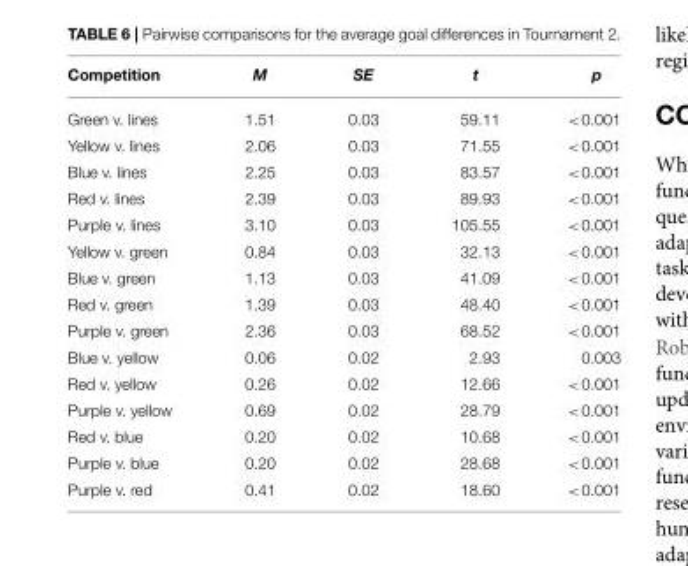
<table><thead><tr><td>Competition</td><td>M</td><td>SE</td><td>t</td><td>p</td></tr></thead><tbody><tr><td>Green v. lines</td><td>1.51</td><td>0.03</td><td>59.11</td><td>&lt;0.001</td></tr><tr><td>Yellow v. lines</td><td>2.06</td><td>0.03</td><td>71.55</td><td>&lt;0.001</td></tr><tr><td>Blue v. lines</td><td>2.25</td><td>0.03</td><td>83.57</td><td>&lt;0.001</td></tr><tr><td>Red v. lines</td><td>2.39</td><td>0.03</td><td>89.93</td><td>&lt;0.001</td></tr><tr><td>Purple v. lines</td><td>3.10</td><td>0.03</td><td>105.55</td><td>&lt;0.001</td></tr><tr><td>Yellow v. green</td><td>0.84</td><td>0.03</td><td>32.13</td><td>&lt;0.001</td></tr><tr><td>Blue v. green</td><td>1.13</td><td>0.03</td><td>41.09</td><td>&lt;0.001</td></tr><tr><td>Red v. green</td><td>1.39</td><td>0.03</td><td>48.40</td><td>&lt;0.001</td></tr><tr><td>Purple v. green</td><td>2.36</td><td>0.03</td><td>68.52</td><td>&lt;0.001</td></tr><tr><td>Blue v. yellow</td><td>0.06</td><td>0.02</td><td>2.93</td><td>0.003</td></tr><tr><td>Red v. yellow</td><td>0.26</td><td>0.02</td><td>12.66</td><td>&lt;0.001</td></tr><tr><td>Purple v. yellow</td><td>0.69</td><td>0.02</td><td>28.79</td><td>&lt;0.001</td></tr><tr><td>Red v. blue</td><td>0.20</td><td>0.02</td><td>10.68</td><td>&lt;0.001</td></tr><tr><td>Purple v. blue</td><td>0.20</td><td>0.02</td><td>28.68</td><td>&lt;0.001</td></tr><tr><td>Purple v. red</td><td>0.41</td><td>0.02</td><td>18.60</td><td>&lt;0.001</td></tr></tbody></table>